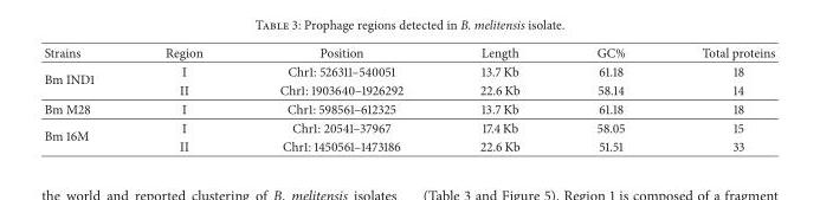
<table><thead><tr><td>Strains</td><td>Region</td><td>Position</td><td>Length</td><td>GC%</td><td>Total proteins</td></tr></thead><tbody><tr><td rowspan="2">Bm IND1</td><td>I</td><td>Chr1: 526311–540051</td><td>13.7 Kb</td><td>61.18</td><td>18</td></tr><tr><td>II</td><td>Chr1: 1903640–1926292</td><td>22.6 Kb</td><td>58.14</td><td>14</td></tr><tr><td>Bm M28</td><td>I</td><td>Chr1: 598561–612325</td><td>13.7 Kb</td><td>61.18</td><td>18</td></tr><tr><td rowspan="2">Bm 16M</td><td>I</td><td>Chr1: 20541–37967</td><td>17.4 Kb</td><td>58.05</td><td>15</td></tr><tr><td>II</td><td>Chr1: 1450561–1473186</td><td>22.6 Kb</td><td>51.51</td><td>33</td></tr></tbody></table>